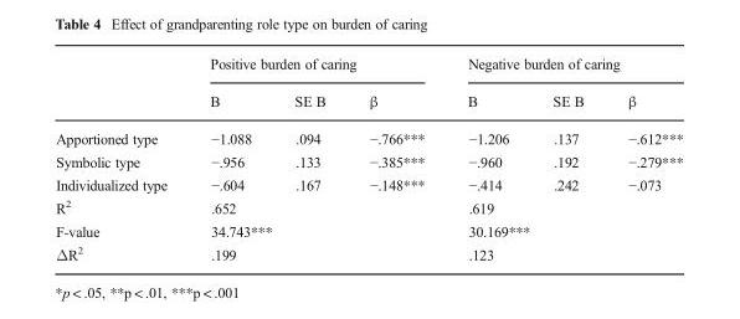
<table><thead><tr><td rowspan="2"></td><td colspan="3">Positive burden of caring</td><td colspan="3">Negative burden of caring</td></tr><tr><td>B</td><td>SE B</td><td>β</td><td>B</td><td>SE B</td><td>β</td></tr></thead><tbody><tr><td>Apportioned type</td><td>−1.088</td><td>.094</td><td>−.766***</td><td>−1.206</td><td>.137</td><td>−.612***</td></tr><tr><td>Symbolic type</td><td>−.956</td><td>.133</td><td>−.385***</td><td>−.960</td><td>.192</td><td>−.279***</td></tr><tr><td>Individualized type</td><td>−.604</td><td>.167</td><td>−.148***</td><td>−.414</td><td>.242</td><td>−.073</td></tr><tr><td>R<sup>2</sup></td><td colspan="3">.652</td><td colspan="3">.619</td></tr><tr><td>F-value</td><td colspan="3">34.743***</td><td colspan="3">30.169***</td></tr><tr><td>ΔR<sup>2</sup></td><td colspan="3">.199</td><td colspan="3">.123</td></tr></tbody></table>